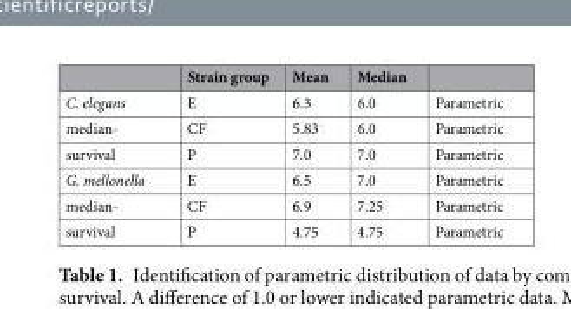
<table><thead><tr><td></td><td>Strain group</td><td>Mean</td><td>Median</td><td></td></tr></thead><tbody><tr><td>C. elegans</td><td>E</td><td>6.3</td><td>6.0</td><td>Parametric</td></tr><tr><td>median-</td><td>CF</td><td>5.83</td><td>6.0</td><td>Parametric</td></tr><tr><td>survival</td><td>P</td><td>7.0</td><td>7.0</td><td>Parametric</td></tr><tr><td>G. mellonella</td><td>E</td><td>6.5</td><td>7.0</td><td>Parametric</td></tr><tr><td>median-</td><td>CF</td><td>6.9</td><td>7.25</td><td>Parametric</td></tr><tr><td>survival</td><td>P</td><td>4.75</td><td>4.75</td><td>Parametric</td></tr></tbody></table>